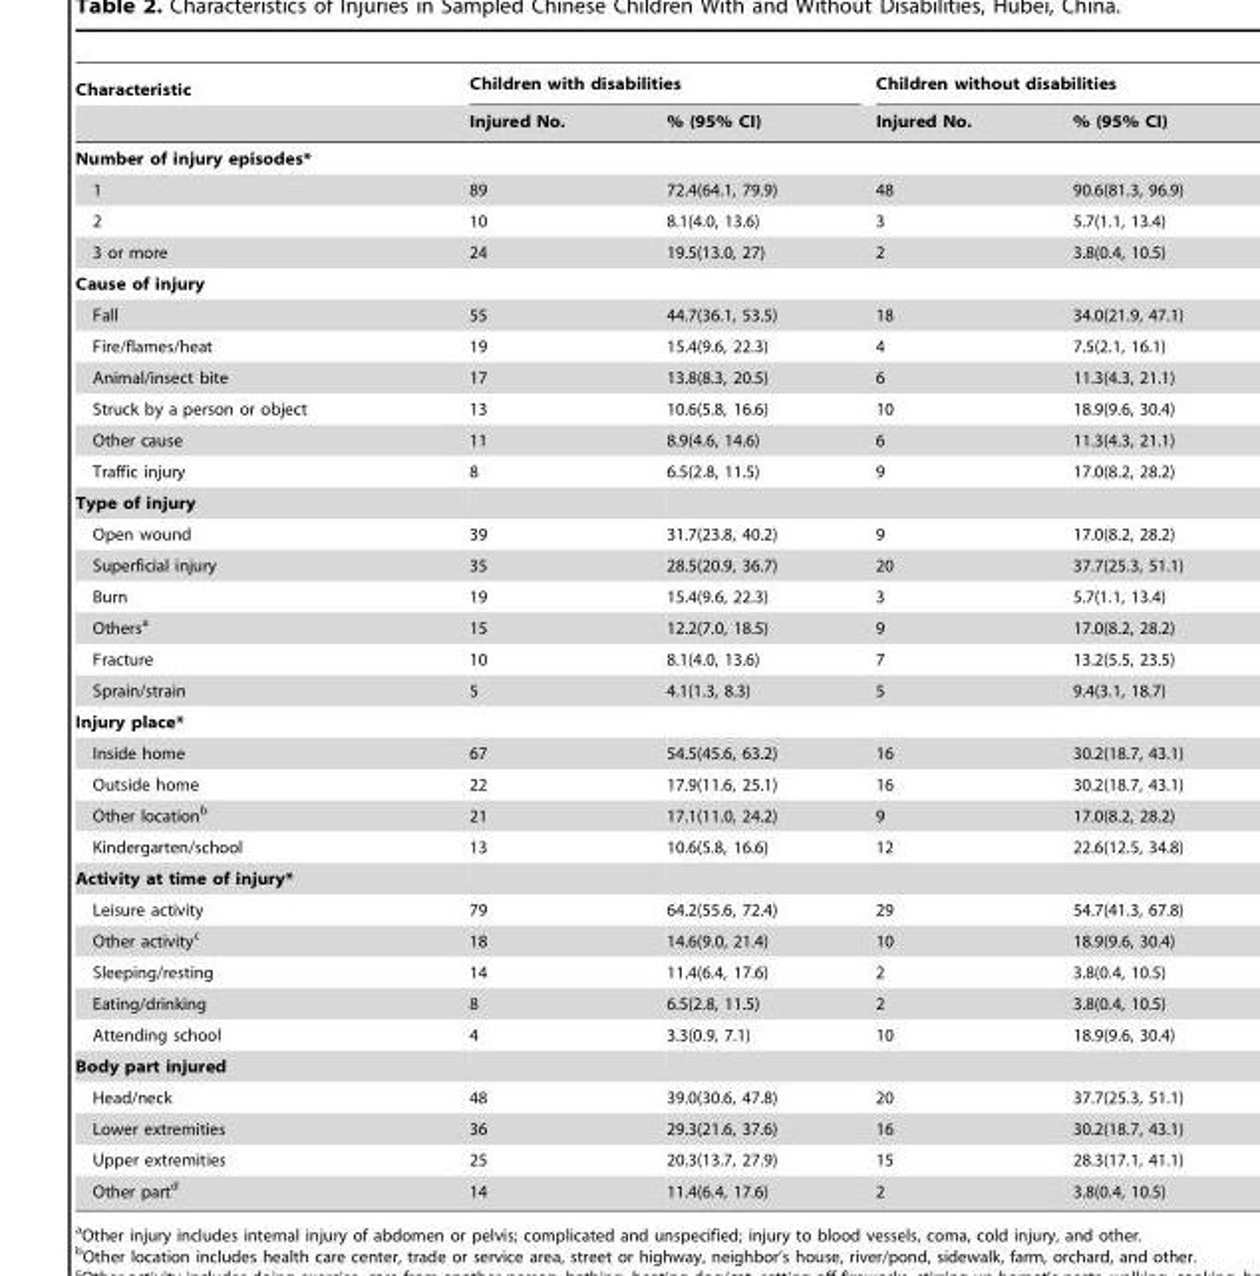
<table><thead><tr><td rowspan="2">Characteristic</td><td colspan="2">Children with disabilities</td><td colspan="2">Children without disabilities</td></tr><tr><td>Injured No.</td><td>% (95% CI)</td><td>Injured No.</td><td>% (95% CI)</td></tr></thead><tbody><tr><td colspan="5">Number of injury episodes*</td></tr><tr><td>1</td><td>89</td><td>72.4(64.1, 79.9)</td><td>48</td><td>90.6(81.3, 96.9)</td></tr><tr><td>2</td><td>10</td><td>8.1(4.0, 13.6)</td><td>3</td><td>5.7(1.1, 13.4)</td></tr><tr><td>3 or more</td><td>24</td><td>19.5(13.0, 27)</td><td>2</td><td>3.8(0.4, 10.5)</td></tr><tr><td colspan="5">Cause of injury</td></tr><tr><td>Fall</td><td>55</td><td>44.7(36.1, 53.5)</td><td>18</td><td>34.0(21.9, 47.1)</td></tr><tr><td>Fire/flames/heat</td><td>19</td><td>15.4(9.6, 22.3)</td><td>4</td><td>7.5(2.1, 16.1)</td></tr><tr><td>Animal/insect bite</td><td>17</td><td>13.8(8.3, 20.5)</td><td>6</td><td>11.3(4.3, 21.1)</td></tr><tr><td>Struck by a person or object</td><td>13</td><td>10.6(5.8, 16.6)</td><td>10</td><td>18.9(9.6, 30.4)</td></tr><tr><td>Other cause</td><td>11</td><td>8.9(4.6, 14.6)</td><td>6</td><td>11.3(4.3, 21.1)</td></tr><tr><td>Traffic injury</td><td>8</td><td>6.5(2.8, 11.5)</td><td>9</td><td>17.0(8.2, 28.2)</td></tr><tr><td colspan="5">Type of injury</td></tr><tr><td>Open wound</td><td>39</td><td>31.7(23.8, 40.2)</td><td>9</td><td>17.0(8.2, 28.2)</td></tr><tr><td>Superficial injury</td><td>35</td><td>28.5(20.9, 36.7)</td><td>20</td><td>37.7(25.3, 51.1)</td></tr><tr><td>Burn</td><td>19</td><td>15.4(9.6, 22.3)</td><td>3</td><td>5.7(1.1, 13.4)</td></tr><tr><td>Others<sup>a</sup></td><td>15</td><td>12.2(7.0, 18.5)</td><td>9</td><td>17.0(8.2, 28.2)</td></tr><tr><td>Fracture</td><td>10</td><td>8.1(4.0, 13.6)</td><td>7</td><td>13.2(5.5, 23.5)</td></tr><tr><td>Sprain/strain</td><td>5</td><td>4.1(1.3, 8.3)</td><td>5</td><td>9.4(3.1, 18.7)</td></tr><tr><td colspan="5">Injury place*</td></tr><tr><td>Inside home</td><td>67</td><td>54.5(45.6, 63.2)</td><td>16</td><td>30.2(18.7, 43.1)</td></tr><tr><td>Outside home</td><td>22</td><td>17.9(11.6, 25.1)</td><td>16</td><td>30.2(18.7, 43.1)</td></tr><tr><td>Other location<sup>b</sup></td><td>21</td><td>17.1(11.0, 24.2)</td><td>9</td><td>17.0(8.2, 28.2)</td></tr><tr><td>Kindergarten/school</td><td>13</td><td>10.6(5.8, 16.6)</td><td>12</td><td>22.6(12.5, 34.8)</td></tr><tr><td colspan="5">Activity at time of injury*</td></tr><tr><td>Leisure activity</td><td>79</td><td>64.2(55.6, 72.4)</td><td>29</td><td>54.7(41.3, 67.8)</td></tr><tr><td>Other activity<sup>c</sup></td><td>18</td><td>14.6(9.0, 21.4)</td><td>10</td><td>18.9(9.6, 30.4)</td></tr><tr><td>Sleeping/resting</td><td>14</td><td>11.4(6.4, 17.6)</td><td>2</td><td>3.8(0.4, 10.5)</td></tr><tr><td>Eating/drinking</td><td>8</td><td>6.5(2.8, 11.5)</td><td>2</td><td>3.8(0.4, 10.5)</td></tr><tr><td>Attending school</td><td>4</td><td>3.3(0.9, 7.1)</td><td>10</td><td>18.9(9.6, 30.4)</td></tr><tr><td colspan="5">Body part injured</td></tr><tr><td>Head/neck</td><td>48</td><td>39.0(30.6, 47.8)</td><td>20</td><td>37.7(25.3, 51.1)</td></tr><tr><td>Lower extremities</td><td>36</td><td>29.3(21.6, 37.6)</td><td>16</td><td>30.2(18.7, 43.1)</td></tr><tr><td>Upper extremities</td><td>25</td><td>20.3(13.7, 27.9)</td><td>15</td><td>28.3(17.1, 41.1)</td></tr><tr><td>Other part<sup>d</sup></td><td>14</td><td>11.4(6.4, 17.6)</td><td>2</td><td>3.8(0.4, 10.5)</td></tr></tbody></table>